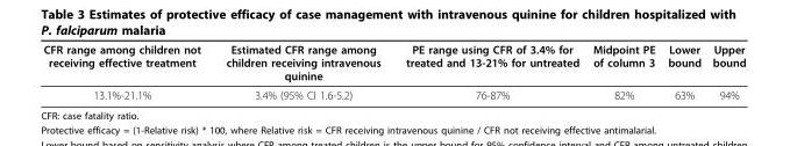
<table><thead><tr><td>CFR range among children not receiving effective treatment</td><td>Estimated CFR range among children receiving intravenous quinine</td><td>PE range using CFR of 3.4% for treated and 13-21% for untreated</td><td>Midpoint PE of column 3</td><td>Lower bound</td><td>Upper bound</td></tr></thead><tbody><tr><td>13.1%-21.1%</td><td>3.4% (95% CI 1.6-5.2)</td><td>76-87%</td><td>82%</td><td>63%</td><td>94%</td></tr></tbody></table>